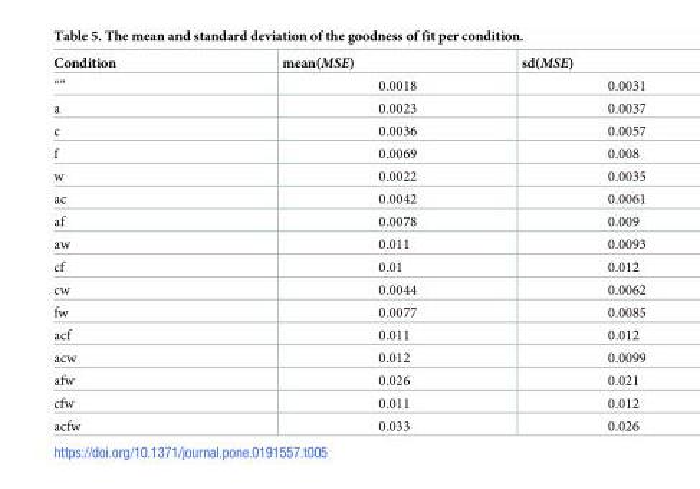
<table><thead><tr><td>Condition</td><td>mean(MSE)</td><td>sd(MSE)</td></tr></thead><tbody><tr><td>“”</td><td>0.0018</td><td>0.0031</td></tr><tr><td>a</td><td>0.0023</td><td>0.0037</td></tr><tr><td>c</td><td>0.0036</td><td>0.0057</td></tr><tr><td>f</td><td>0.0069</td><td>0.008</td></tr><tr><td>w</td><td>0.0022</td><td>0.0035</td></tr><tr><td>ac</td><td>0.0042</td><td>0.0061</td></tr><tr><td>af</td><td>0.0078</td><td>0.009</td></tr><tr><td>aw</td><td>0.011</td><td>0.0093</td></tr><tr><td>cf</td><td>0.01</td><td>0.012</td></tr><tr><td>cw</td><td>0.0044</td><td>0.0062</td></tr><tr><td>fw</td><td>0.0077</td><td>0.0085</td></tr><tr><td>acf</td><td>0.011</td><td>0.012</td></tr><tr><td>acw</td><td>0.012</td><td>0.0099</td></tr><tr><td>afw</td><td>0.026</td><td>0.021</td></tr><tr><td>cfw</td><td>0.011</td><td>0.012</td></tr><tr><td>acfw</td><td>0.033</td><td>0.026</td></tr></tbody></table>